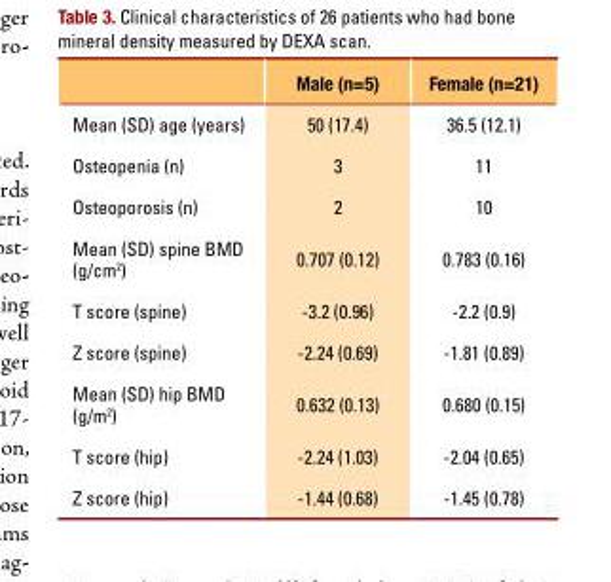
<table><thead><tr><td></td><td>Male (n=5)</td><td>Female (n=21)</td></tr></thead><tbody><tr><td>Mean (Sd) age (years)</td><td>50 (17.4)</td><td>36.5 (12.1)</td></tr><tr><td>osteopenia (n)</td><td>3</td><td>11</td></tr><tr><td>osteoporosis (n)</td><td>2</td><td>10</td></tr><tr><td>Mean (Sd) spine BMd (g/cm<sup>2</sup>)</td><td>0.707 (0.12)</td><td>0.783 (0.16)</td></tr><tr><td>t score (spine)</td><td>-3.2 (0.96)</td><td>-2.2 (0.9)</td></tr><tr><td>Z score (spine)</td><td>-2.24 (0.69)</td><td>-1.81 (0.89)</td></tr><tr><td>Mean (Sd) hip BMd (g/m<sup>2</sup>)</td><td>0.632 (0.13)</td><td>0.680 (0.15)</td></tr><tr><td>t score (hip)</td><td>-2.24 (1.03)</td><td>-2.04 (0.65)</td></tr><tr><td>Z score (hip)</td><td>-1.44 (0.68)</td><td>-1.45 (0.78)</td></tr></tbody></table>